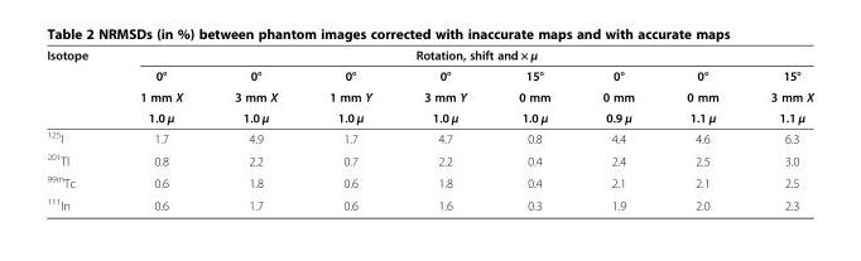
<table><thead><tr><td rowspan="4">Isotope</td><td colspan="8">Rotation, shift and × μ</td></tr><tr><td rowspan="3">0° 1 mm X 1.0 μ</td><td rowspan="3">0° 3 mm X 1.0 μ</td><td rowspan="3">0° 1 mm Y 1.0 μ</td><td rowspan="3">0° 3 mm Y 1.0 μ</td><td rowspan="3">15° 0 mm 1.0 μ</td><td rowspan="3">0° 0 mm 0.9 μ</td><td rowspan="3">0° 0 mm 1.1 μ</td><td rowspan="3">15° 3 mm X 1.1 μ</td></tr><tr></tr><tr></tr></thead><tbody><tr><td><sup>125</sup>I</td><td>1.7</td><td>4.9</td><td>1.7</td><td>4.7</td><td>0.8</td><td>4.4</td><td>4.6</td><td>6.3</td></tr><tr><td><sup>201</sup>Tl</td><td>0.8</td><td>2.2</td><td>0.7</td><td>2.2</td><td>0.4</td><td>2.4</td><td>2.5</td><td>3.0</td></tr><tr><td><sup>99m</sup>Tc</td><td>0.6</td><td>1.8</td><td>0.6</td><td>1.8</td><td>0.4</td><td>2.1</td><td>2.1</td><td>2.5</td></tr><tr><td><sup>111</sup>In</td><td>0.6</td><td>1.7</td><td>0.6</td><td>1.6</td><td>0.3</td><td>1.9</td><td>2.0</td><td>2.3</td></tr></tbody></table>